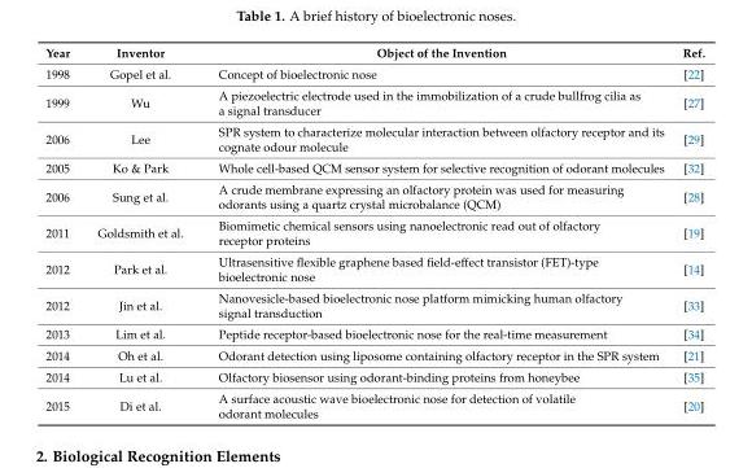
<table><thead><tr><td>Year</td><td>Inventor</td><td>Object of the Invention</td><td>Ref.</td></tr></thead><tbody><tr><td>1998</td><td>Gopel et al.</td><td>Concept of bioelectronic nose</td><td>[22]</td></tr><tr><td>1999</td><td>Wu</td><td>A piezoelectric electrode used in the immobilization of a crude bullfrog cilia as a signal transducer</td><td>[27]</td></tr><tr><td>2006</td><td>Lee</td><td>SPR system to characterize molecular interaction between olfactory receptor and its cognate odour molecule</td><td>[29]</td></tr><tr><td>2005</td><td>Ko &amp; Park</td><td>Whole cell-based QCM sensor system for selective recognition of odorant molecules</td><td>[32]</td></tr><tr><td>2006</td><td>Sung et al.</td><td>A crude membrane expressing an olfactory protein was used for measuring odorants using a quartz crystal microbalance (QCM)</td><td>[28]</td></tr><tr><td>2011</td><td>Goldsmith et al.</td><td>Biomimetic chemical sensors using nanoelectronic read out of olfactory receptor proteins</td><td>[19]</td></tr><tr><td>2012</td><td>Park et al.</td><td>Ultrasensitive flexible graphene based field-effect transistor (FET)-type bioelectronic nose</td><td>[14]</td></tr><tr><td>2012</td><td>Jin et al.</td><td>Nanovesicle-based bioelectronic nose platform mimicking human olfactory signal transduction</td><td>[33]</td></tr><tr><td>2013</td><td>Lim et al.</td><td>Peptide receptor-based bioelectronic nose for the real-time measurement</td><td>[34]</td></tr><tr><td>2014</td><td>Oh et al.</td><td>Odorant detection using liposome containing olfactory receptor in the SPR system</td><td>[21]</td></tr><tr><td>2014</td><td>Lu et al.</td><td>Olfactory biosensor using odorant-binding proteins from honeybee</td><td>[35]</td></tr><tr><td>2015</td><td>Di et al.</td><td>A surface acoustic wave bioelectronic nose for detection of volatile odorant molecules</td><td>[20]</td></tr></tbody></table>